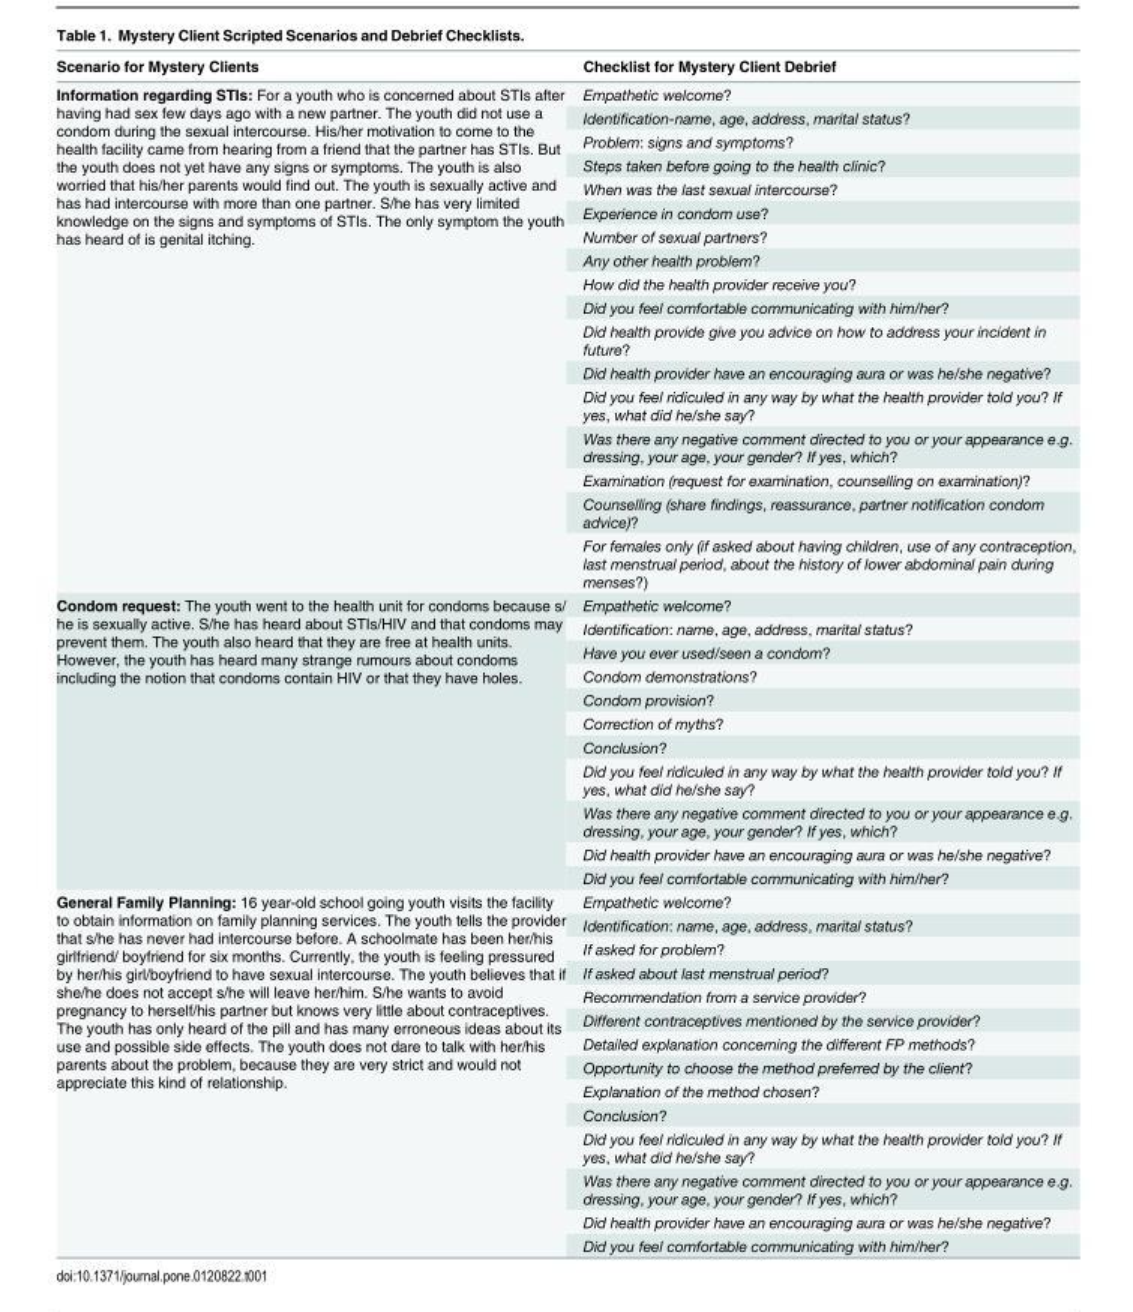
<table><thead><tr><td>Scenario for Mystery Clients</td><td>Checklist for Mystery Client Debrief</td></tr></thead><tbody><tr><td rowspan="17">Information regarding STIs: For a youth who is concerned about STIs after having had sex few days ago with a new partner. The youth did not use a condom during the sexual intercourse. His/her motivation to come to the health facility came from hearing from a friend that the partner has STIs. But the youth does not yet have any signs or symptoms. The youth is also worried that his/her parents would find out. The youth is sexually active and has had intercourse with more than one partner. S/he has very limited knowledge on the signs and symptoms of STIs. The only symptom the youth has heard of is genital itching.</td><td>Empathetic welcome?</td></tr><tr><td>Identification-name, age, address, marital status?</td></tr><tr><td>Problem: signs and symptoms?</td></tr><tr><td>Steps taken before going to the health clinic?</td></tr><tr><td>When was the last sexual intercourse?</td></tr><tr><td>Experience in condom use?</td></tr><tr><td>Number of sexual partners?</td></tr><tr><td>Any other health problem?</td></tr><tr><td>How did the health provider receive you?</td></tr><tr><td>Did you feel comfortable communicating with him/her?</td></tr><tr><td>Did health provide give you advice on how to address your incident in future?</td></tr><tr><td>Did health provider have an encouraging aura or was he/she negative?</td></tr><tr><td>Did you feel ridiculed in any way by what the health provider told you? If yes, what did he/she say?</td></tr><tr><td>Was there any negative comment directed to you or your appearance e.g. dressing, your age, your gender? If yes, which?</td></tr><tr><td>Examination (request for examination, counselling on examination)?</td></tr><tr><td>Counselling (share findings, reassurance, partner notification condom advice)?</td></tr><tr><td>For females only (if asked about having children, use of any contraception, last menstrual period, about the history of lower abdominal pain during menses?)</td></tr><tr><td rowspan="11">Condom request: The youth went to the health unit for condoms because s/ he is sexually active. S/he has heard about STIs/HIV and that condoms may prevent them. The youth also heard that they are free at health units. However, the youth has heard many strange rumours about condoms including the notion that condoms contain HIV or that they have holes.</td><td>Empathetic welcome?</td></tr><tr><td>Identification: name, age, address, marital status?</td></tr><tr><td>Have you ever used/seen a condom?</td></tr><tr><td>Condom demonstrations?</td></tr><tr><td>Condom provision?</td></tr><tr><td>Correction of myths?</td></tr><tr><td>Conclusion?</td></tr><tr><td>Did you feel ridiculed in any way by what the health provider told you? If yes, what did he/she say?</td></tr><tr><td>Was there any negative comment directed to you or your appearance e.g. dressing, your age, your gender? If yes, which?</td></tr><tr><td>Did health provider have an encouraging aura or was he/she negative?</td></tr><tr><td>Did you feel comfortable communicating with him/her?</td></tr><tr><td rowspan="14">General Family Planning: 16 year-old school going youth visits the facility to obtain information on family planning services. The youth tells the provider that s/he has never had intercourse before. A schoolmate has been her/his girlfriend/ boyfriend for six months. Currently, the youth is feeling pressured by her/his girl/boyfriend to have sexual intercourse. The youth believes that if she/he does not accept s/he will leave her/him. S/he wants to avoid pregnancy to herself/his partner but knows very little about contraceptives. The youth has only heard of the pill and has many erroneous ideas about its use and possible side effects. The youth does not dare to talk with her/his parents about the problem, because they are very strict and would not appreciate this kind of relationship.</td><td>Empathetic welcome?</td></tr><tr><td>Identification: name, age, address, marital status?</td></tr><tr><td>If asked for problem?</td></tr><tr><td>If asked about last menstrual period?</td></tr><tr><td>Recommendation from a service provider?</td></tr><tr><td>Different contraceptives mentioned by the service provider?</td></tr><tr><td>Detailed explanation concerning the different FP methods?</td></tr><tr><td>Opportunity to choose the method preferred by the client?</td></tr><tr><td>Explanation of the method chosen?</td></tr><tr><td>Conclusion?</td></tr><tr><td>Did you feel ridiculed in any way by what the health provider told you? If yes, what did he/she say?</td></tr><tr><td>Was there any negative comment directed to you or your appearance e.g. dressing, your age, your gender? If yes, which?</td></tr><tr><td>Did health provider have an encouraging aura or was he/she negative?</td></tr><tr><td>Did you feel comfortable communicating with him/her?</td></tr></tbody></table>